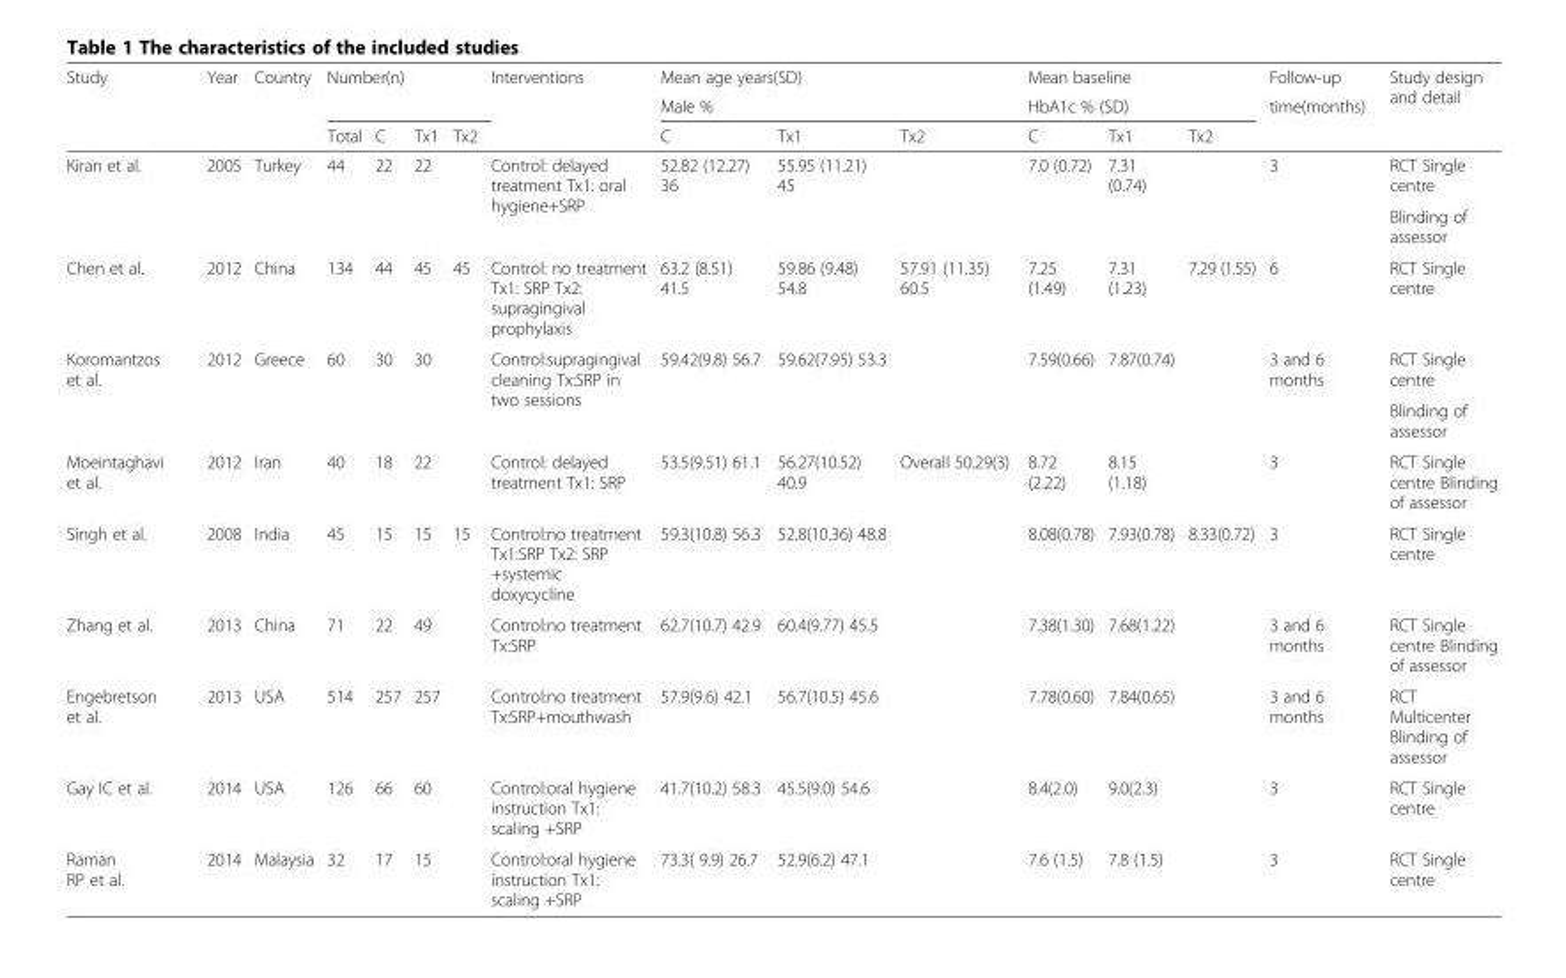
<table><thead><tr><td rowspan="3">Study</td><td rowspan="3">Year</td><td rowspan="3">Country</td><td rowspan="2" colspan="4">Number(n)</td><td rowspan="3">Interventions</td><td rowspan="2" colspan="3">Mean age years(SD) Male %</td><td rowspan="2" colspan="3">Mean baseline HbA1c % (SD)</td><td rowspan="3">Follow-up time(months)</td><td rowspan="3">Study design and detail</td></tr><tr></tr><tr><td>Total</td><td>C</td><td>Tx1</td><td>Tx2</td><td>C</td><td>Tx1</td><td>Tx2</td><td>C</td><td>Tx1</td><td>Tx2</td></tr></thead><tbody><tr><td rowspan="2">Kiran et al.</td><td rowspan="2">2005</td><td rowspan="2">Turkey</td><td rowspan="2">44</td><td rowspan="2">22</td><td rowspan="2">22</td><td rowspan="2"></td><td rowspan="2">Control: delayed treatment Tx1: oral hygiene+SRP</td><td rowspan="2">52.82 (12.27) 36</td><td rowspan="2">55.95 (11.21) 45</td><td rowspan="2"></td><td rowspan="2">7.0 (0.72)</td><td rowspan="2">7.31 (0.74)</td><td rowspan="2"></td><td rowspan="2">3</td><td>RCT Single centre</td></tr><tr><td>Blinding of assessor</td></tr><tr><td>Chen et al.</td><td>2012</td><td>China</td><td>134</td><td>44</td><td>45</td><td>45</td><td>Control: no treatment Tx1: SRP Tx2: supragingival prophylaxis</td><td>63.2 (8.51) 41.5</td><td>59.86 (9.48) 54.8</td><td>57.91 (11.35) 60.5</td><td>7.25 (1.49)</td><td>7.31 (1.23)</td><td>7.29 (1.55)</td><td>6</td><td>RCT Single centre</td></tr><tr><td rowspan="2">Koromantzos et al.</td><td rowspan="2">2012</td><td rowspan="2">Greece</td><td rowspan="2">60</td><td rowspan="2">30</td><td rowspan="2">30</td><td rowspan="2"></td><td rowspan="2">Control:supragingival cleaning Tx:SRP in two sessions</td><td rowspan="2">59.42(9.8) 56.7</td><td rowspan="2">59.62(7.95) 53.3</td><td rowspan="2"></td><td rowspan="2">7.59(0.66)</td><td rowspan="2">7.87(0.74)</td><td rowspan="2"></td><td rowspan="2">3 and 6 months</td><td>RCT Single centre</td></tr><tr><td>Blinding of assessor</td></tr><tr><td>Moeintaghavi et al.</td><td>2012</td><td>Iran</td><td>40</td><td>18</td><td>22</td><td></td><td>Control: delayed treatment Tx1: SRP</td><td>53.5(9.51) 61.1</td><td>56.27(10.52) 40.9</td><td>Overall 50.29(3)</td><td>8.72 (2.22)</td><td>8.15 (1.18)</td><td></td><td>3</td><td>RCT Single centre Blinding of assessor</td></tr><tr><td>Singh et al.</td><td>2008</td><td>India</td><td>45</td><td>15</td><td>15</td><td>15</td><td>Control:no treatment Tx1:SRP Tx2: SRP +systemic doxycycline</td><td>59.3(10.8) 56.3</td><td>52.8(10.36) 48.8</td><td></td><td>8.08(0.78)</td><td>7.93(0.78)</td><td>8.33(0.72)</td><td>3</td><td>RCT Single centre</td></tr><tr><td>Zhang et al.</td><td>2013</td><td>China</td><td>71</td><td>22</td><td>49</td><td></td><td>Control:no treatment Tx:SRP</td><td>62.7(10.7) 42.9</td><td>60.4(9.77) 45.5</td><td></td><td>7.38(1.30)</td><td>7.68(1.22)</td><td></td><td>3 and 6 months</td><td>RCT Single centre Blinding of assessor</td></tr><tr><td>Engebretson et al.</td><td>2013</td><td>USA</td><td>514</td><td>257</td><td>257</td><td></td><td>Control:no treatment Tx:SRP+mouthwash</td><td>57.9(9.6) 42.1</td><td>56.7(10.5) 45.6</td><td></td><td>7.78(0.60)</td><td>7.84(0.65)</td><td></td><td>3 and 6 months</td><td>RCT Multicenter Blinding of assessor</td></tr><tr><td>Gay IC et al.</td><td>2014</td><td>USA</td><td>126</td><td>66</td><td>60</td><td></td><td>Control:oral hygiene instruction Tx1: scaling +SRP</td><td>41.7(10.2) 58.3</td><td>45.5(9.0) 54.6</td><td></td><td>8.4(2.0)</td><td>9.0(2.3)</td><td></td><td>3</td><td>RCT Single centre</td></tr><tr><td>Raman RP et al.</td><td>2014</td><td>Malaysia</td><td>32</td><td>17</td><td>15</td><td></td><td>Control:oral hygiene instruction Tx1: scaling +SRP</td><td>73.3( 9.9) 26.7</td><td>52.9(6.2) 47.1</td><td></td><td>7.6 (1.5)</td><td>7.8 (1.5)</td><td></td><td>3</td><td>RCT Single centre</td></tr></tbody></table>